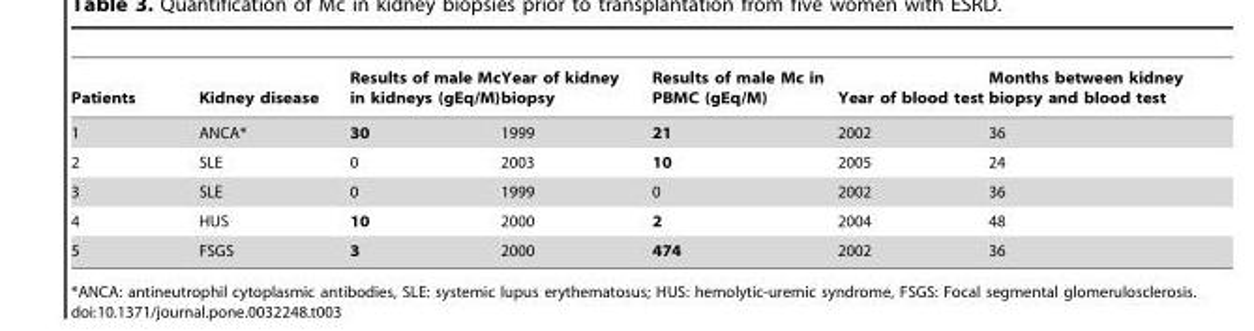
<table><thead><tr><td>Patients</td><td>Kidney disease</td><td>Results of male Mc in kidneys (gEq/M)</td><td>Year of kidney biopsy</td><td>Results of male Mc in PBMC (gEq/M)</td><td>Year of blood test</td><td>Months between kidney biopsy and blood test</td></tr></thead><tbody><tr><td>1</td><td>ANCA*</td><td>30</td><td>1999</td><td>21</td><td>2002</td><td>36</td></tr><tr><td>2</td><td>SLE</td><td>0</td><td>2003</td><td>10</td><td>2005</td><td>24</td></tr><tr><td>3</td><td>SLE</td><td>0</td><td>1999</td><td>0</td><td>2002</td><td>36</td></tr><tr><td>4</td><td>HUS</td><td>10</td><td>2000</td><td>2</td><td>2004</td><td>48</td></tr><tr><td>5</td><td>FSGS</td><td>3</td><td>2000</td><td>474</td><td>2002</td><td>36</td></tr></tbody></table>